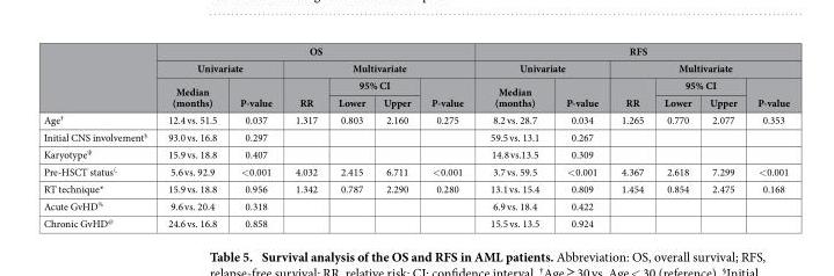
<table><thead><tr><td rowspan="4"></td><td colspan="6">OS</td><td colspan="6">RFS</td></tr><tr><td colspan="2">Univariate</td><td colspan="4">Multivariate</td><td colspan="2">Univariate</td><td colspan="4">Multivariate</td></tr><tr><td rowspan="2">Median (months)</td><td rowspan="2">P-value</td><td rowspan="2">RR</td><td colspan="2">95% CI</td><td rowspan="2">P-value</td><td rowspan="2">Median (months)</td><td rowspan="2">P-value</td><td rowspan="2">RR</td><td colspan="2">95% CI</td><td rowspan="2">P-value</td></tr><tr><td>Lower</td><td>Upper</td><td>Lower</td><td>Upper</td></tr></thead><tbody><tr><td>Age†</td><td>12.4 vs. 51.5</td><td>0.037</td><td>1.317</td><td>0.803</td><td>2.160</td><td>0.275</td><td>8.2 vs. 28.7</td><td>0.034</td><td>1.265</td><td>0.770</td><td>2.077</td><td>0.353</td></tr><tr><td>Initial CNS involvement§</td><td>93.0 vs. 16.8</td><td>0.297</td><td></td><td></td><td></td><td></td><td>59.5 vs. 13.1</td><td>0.267</td><td></td><td></td><td></td><td></td></tr><tr><td>KaryotypeΨ</td><td>15.9 vs. 18.8</td><td>0.407</td><td></td><td></td><td></td><td></td><td>14.8 vs.13.5</td><td>0.309</td><td></td><td></td><td></td><td></td></tr><tr><td>Pre-HSCT statusζ</td><td>5.6 vs. 92.9</td><td>&lt; 0.001</td><td>4.032</td><td>2.415</td><td>6.711</td><td>&lt; 0.001</td><td>3.7 vs. 59.5</td><td>&lt; 0.001</td><td>4.367</td><td>2.618</td><td>7.299</td><td>&lt; 0.001</td></tr><tr><td>RT technique*</td><td>15.9 vs. 18.8</td><td>0.956</td><td>1.342</td><td>0.787</td><td>2.290</td><td>0.280</td><td>13.1 vs. 15.4</td><td>0.809</td><td>1.454</td><td>0.854</td><td>2.475</td><td>0.168</td></tr><tr><td>Acute GvHD%</td><td>9.6 vs. 20.4</td><td>0.318</td><td></td><td></td><td></td><td></td><td>6.9 vs. 18.4</td><td>0.422</td><td></td><td></td><td></td><td></td></tr><tr><td>Chronic GvHD@</td><td>24.6 vs. 16.8</td><td>0.858</td><td></td><td></td><td></td><td></td><td>15.5 vs. 13.5</td><td>0.924</td><td></td><td></td><td></td><td></td></tr></tbody></table>